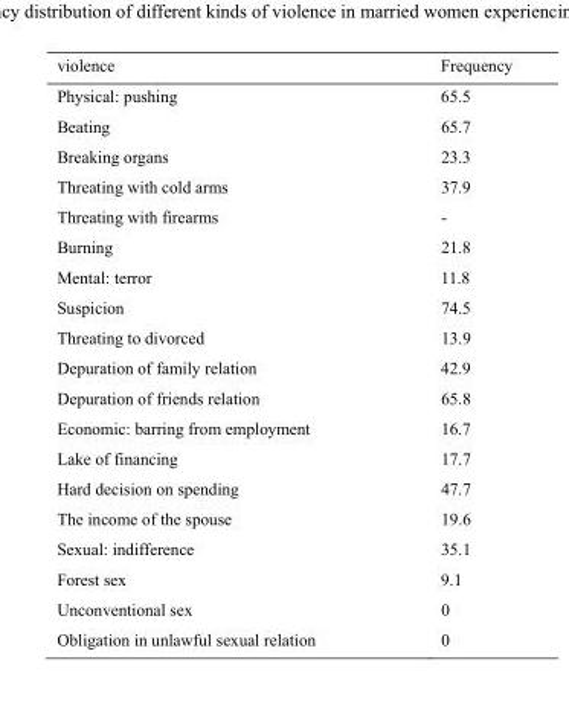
<table><thead><tr><td>violence</td><td>Frequency</td></tr></thead><tbody><tr><td>Physical: pushing</td><td>65.5</td></tr><tr><td>Beating</td><td>65.7</td></tr><tr><td>Breaking organs</td><td>23.3</td></tr><tr><td>Threating with cold arms</td><td>37.9</td></tr><tr><td>Threating with firearms</td><td>-</td></tr><tr><td>Burning</td><td>21.8</td></tr><tr><td>Mental: terror</td><td>11.8</td></tr><tr><td>Suspicion</td><td>74.5</td></tr><tr><td>Threating to divorced</td><td>13.9</td></tr><tr><td>Depuration of family relation</td><td>42.9</td></tr><tr><td>Depuration of friends relation</td><td>65.8</td></tr><tr><td>Economic: barring from employment</td><td>16.7</td></tr><tr><td>Lake of financing</td><td>17.7</td></tr><tr><td>Hard decision on spending</td><td>47.7</td></tr><tr><td>The income of the spouse</td><td>19.6</td></tr><tr><td>Sexual: indifference</td><td>35.1</td></tr><tr><td>Forest sex</td><td>9.1</td></tr><tr><td>Unconventional sex</td><td>0</td></tr><tr><td>Obligation in unlawful sexual relation</td><td>0</td></tr></tbody></table>